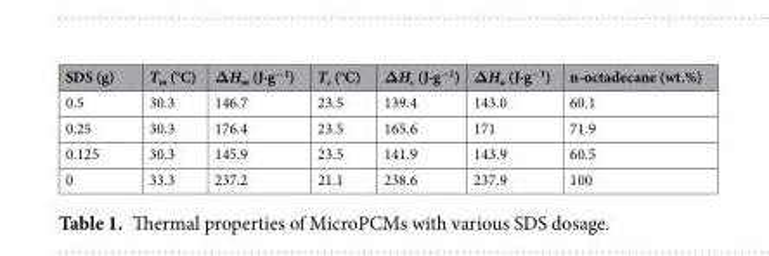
<table><thead><tr><td>SDS (g)</td><td>T<sub>m</sub> (°C)</td><td>ΔH<sub>m</sub> (J·g<sup>−1</sup>)</td><td>T<sub>c</sub> (°C)</td><td>ΔH<sub>c</sub> (J·g<sup>−1</sup>)</td><td>ΔH<sub>a</sub> (J·g<sup>−1</sup>)</td><td>n-octadecane (wt.%)</td></tr></thead><tbody><tr><td>0.5</td><td>30.3</td><td>146.7</td><td>23.5</td><td>139.4</td><td>143.0</td><td>60.1</td></tr><tr><td>0.25</td><td>30.3</td><td>176.4</td><td>23.5</td><td>165.6</td><td>171</td><td>71.9</td></tr><tr><td>0.125</td><td>30.3</td><td>145.9</td><td>23.5</td><td>141.9</td><td>143.9</td><td>60.5</td></tr><tr><td>0</td><td>33.3</td><td>237.2</td><td>21.1</td><td>238.6</td><td>237.9</td><td>100</td></tr></tbody></table>